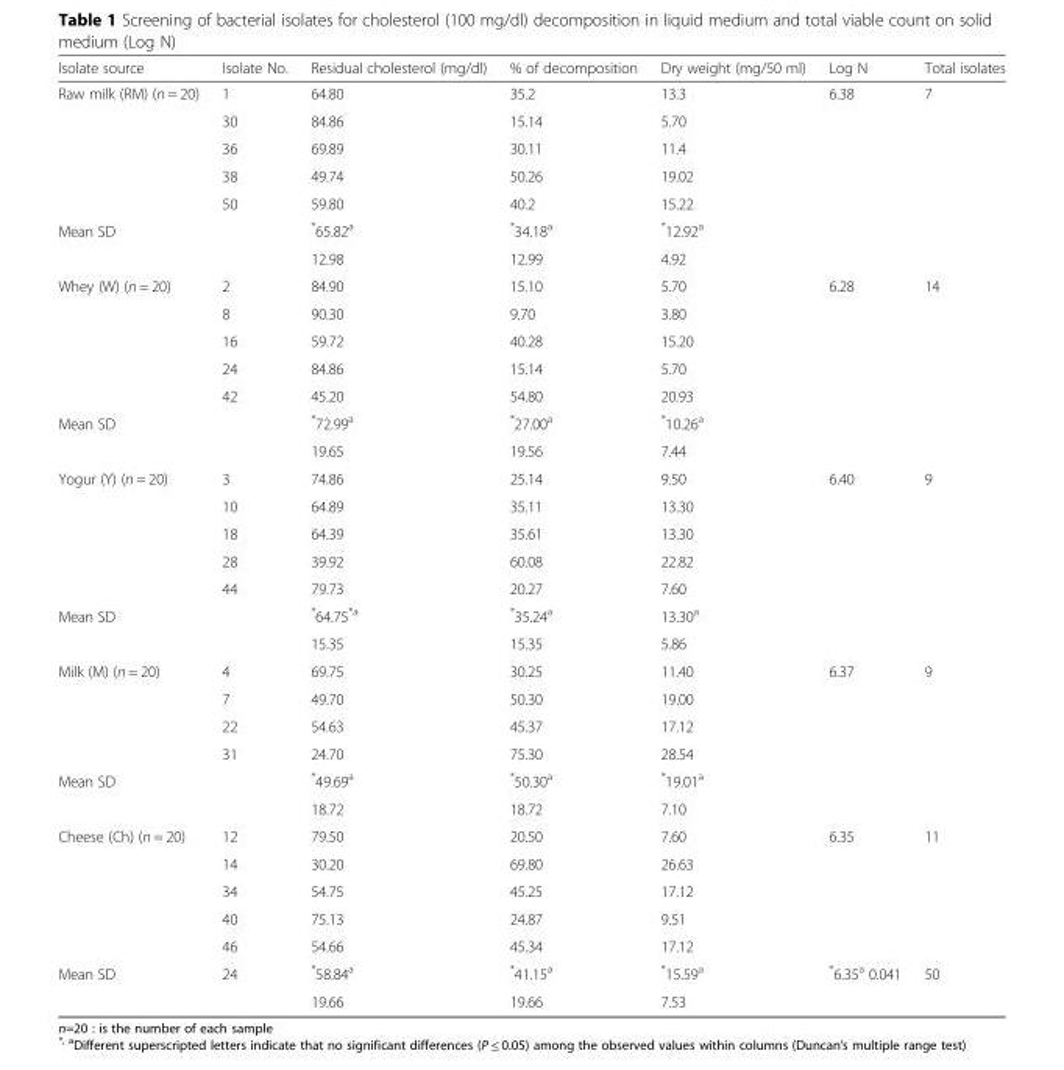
<table><thead><tr><td>Isolate source</td><td>Isolate No.</td><td>Residual cholesterol (mg/dl)</td><td>% of decomposition</td><td>Dry weight (mg/50 ml)</td><td>Log N</td><td>Total isolates</td></tr></thead><tbody><tr><td rowspan="5">Raw milk (RM) (n = 20)</td><td>1</td><td>64.80</td><td>35.2</td><td>13.3</td><td rowspan="5">6.38</td><td rowspan="5">7</td></tr><tr><td>30</td><td>84.86</td><td>15.14</td><td>5.70</td></tr><tr><td>36</td><td>69.89</td><td>30.11</td><td>11.4</td></tr><tr><td>38</td><td>49.74</td><td>50.26</td><td>19.02</td></tr><tr><td>50</td><td>59.80</td><td>40.2</td><td>15.22</td></tr><tr><td rowspan="2">Mean SD</td><td></td><td>*65.82<sup>a</sup></td><td>*34.18<sup>a</sup></td><td>*12.92<sup>a</sup></td><td rowspan="2"></td><td rowspan="2"></td></tr><tr><td></td><td>12.98</td><td>12.99</td><td>4.92</td></tr><tr><td rowspan="5">Whey (W) (n = 20)</td><td>2</td><td>84.90</td><td>15.10</td><td>5.70</td><td rowspan="5">6.28</td><td rowspan="5">14</td></tr><tr><td>8</td><td>90.30</td><td>9.70</td><td>3.80</td></tr><tr><td>16</td><td>59.72</td><td>40.28</td><td>15.20</td></tr><tr><td>24</td><td>84.86</td><td>15.14</td><td>5.70</td></tr><tr><td>42</td><td>45.20</td><td>54.80</td><td>20.93</td></tr><tr><td rowspan="2">Mean SD</td><td></td><td>*72.99<sup>a</sup></td><td>*27.00<sup>a</sup></td><td>*10.26<sup>a</sup></td><td rowspan="2"></td><td rowspan="2"></td></tr><tr><td></td><td>19.65</td><td>19.56</td><td>7.44</td></tr><tr><td rowspan="5">Yogur (Y) (n = 20)</td><td>3</td><td>74.86</td><td>25.14</td><td>9.50</td><td rowspan="5">6.40</td><td rowspan="5">9</td></tr><tr><td>10</td><td>64.89</td><td>35.11</td><td>13.30</td></tr><tr><td>18</td><td>64.39</td><td>35.61</td><td>13.30</td></tr><tr><td>28</td><td>39.92</td><td>60.08</td><td>22.82</td></tr><tr><td>44</td><td>79.73</td><td>20.27</td><td>7.60</td></tr><tr><td rowspan="2">Mean SD</td><td></td><td>*64.75<sup>*a</sup></td><td>*35.24<sup>a</sup></td><td>13.30<sup>a</sup></td><td rowspan="2"></td><td rowspan="2"></td></tr><tr><td></td><td>15.35</td><td>15.35</td><td>5.86</td></tr><tr><td rowspan="4">Milk (M) (n = 20)</td><td>4</td><td>69.75</td><td>30.25</td><td>11.40</td><td rowspan="4">6.37</td><td rowspan="4">9</td></tr><tr><td>7</td><td>49.70</td><td>50.30</td><td>19.00</td></tr><tr><td>22</td><td>54.63</td><td>45.37</td><td>17.12</td></tr><tr><td>31</td><td>24.70</td><td>75.30</td><td>28.54</td></tr><tr><td rowspan="2">Mean SD</td><td></td><td>*49.69<sup>a</sup></td><td>*50.30<sup>a</sup></td><td>*19.01<sup>a</sup></td><td rowspan="2"></td><td rowspan="2"></td></tr><tr><td></td><td>18.72</td><td>18.72</td><td>7.10</td></tr><tr><td rowspan="5">Cheese (Ch) (n = 20)</td><td>12</td><td>79.50</td><td>20.50</td><td>7.60</td><td rowspan="5">6.35</td><td rowspan="5">11</td></tr><tr><td>14</td><td>30.20</td><td>69.80</td><td>26.63</td></tr><tr><td>34</td><td>54.75</td><td>45.25</td><td>17.12</td></tr><tr><td>40</td><td>75.13</td><td>24.87</td><td>9.51</td></tr><tr><td>46</td><td>54.66</td><td>45.34</td><td>17.12</td></tr><tr><td rowspan="2">Mean SD</td><td>24</td><td>*58.84<sup>a</sup></td><td>*41.15<sup>a</sup></td><td>*15.59<sup>a</sup></td><td rowspan="2">*6.35<sup>a</sup> 0.041</td><td rowspan="2">50</td></tr><tr><td></td><td>19.66</td><td>19.66</td><td>7.53</td></tr></tbody></table>